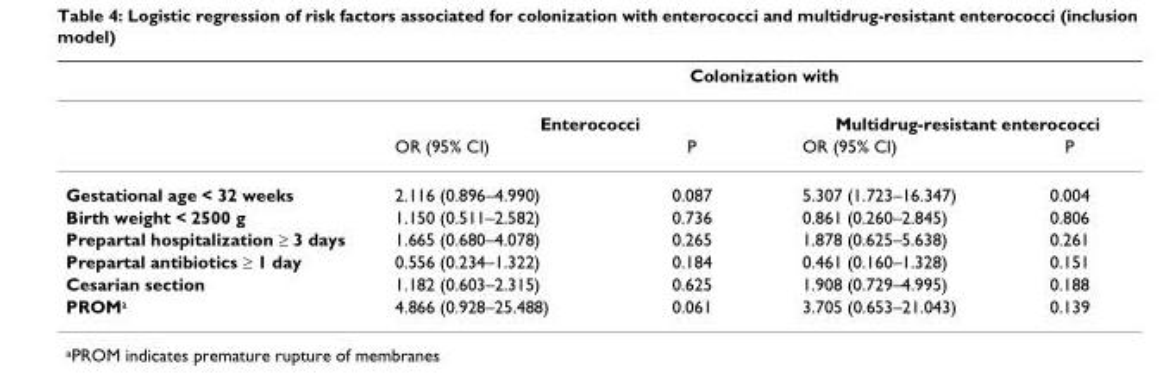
<table><thead><tr><td rowspan="3"></td><td colspan="4">Colonization with</td></tr><tr><td colspan="2">Enterococci</td><td colspan="2">Multidrug-resistant enterococci</td></tr><tr><td>OR (95% CI)</td><td>P</td><td>OR (95% CI)</td><td>P</td></tr></thead><tbody><tr><td>Gestational age &lt; 32 weeks</td><td>2.116 (0.896–4.990)</td><td>0.087</td><td>5.307 (1.723–16.347)</td><td>0.004</td></tr><tr><td>Birth weight &lt; 2500 g</td><td>1.150 (0.511–2.582)</td><td>0.736</td><td>0.861 (0.260–2.845)</td><td>0.806</td></tr><tr><td>Prepartal hospitalization ≥ 3 days</td><td>1.665 (0.680–4.078)</td><td>0.265</td><td>1.878 (0.625–5.638)</td><td>0.261</td></tr><tr><td>Prepartal antibiotics ≥ 1 day</td><td>0.556 (0.234–1.322)</td><td>0.184</td><td>0.461 (0.160–1.328)</td><td>0.151</td></tr><tr><td>Cesarian section</td><td>1.182 (0.603–2.315)</td><td>0.625</td><td>1.908 (0.729–4.995)</td><td>0.188</td></tr><tr><td>PROM<sup>a</sup></td><td>4.866 (0.928–25.488)</td><td>0.061</td><td>3.705 (0.653–21.043)</td><td>0.139</td></tr></tbody></table>